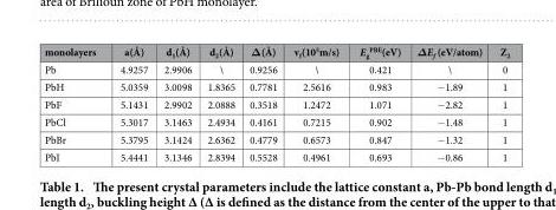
<table><thead><tr><td>monolayers</td><td>a(Å)</td><td>d<sub>1</sub>(Å)</td><td>d<sub>2</sub>(Å)</td><td>Δ(Å)</td><td>v<sub>f</sub>(10<sup>5</sup>m/s)</td><td>E<sub>g</sub> <sup>PBE</sup>(eV)</td><td>ΔE<sub>f</sub> (eV/atom)</td><td>Z<sub>2</sub></td></tr></thead><tbody><tr><td>Pb</td><td>4.9257</td><td>2.9906</td><td>\</td><td>0.9256</td><td>\</td><td>0.421</td><td>\</td><td>0</td></tr><tr><td>PbH</td><td>5.0359</td><td>3.0098</td><td>1.8365</td><td>0.7781</td><td>2.5616</td><td>0.983</td><td>−1.89</td><td>1</td></tr><tr><td>PbF</td><td>5.1431</td><td>2.9902</td><td>2.0888</td><td>0.3518</td><td>1.2472</td><td>1.071</td><td>−2.82</td><td>1</td></tr><tr><td>PbCl</td><td>5.3017</td><td>3.1463</td><td>2.4934</td><td>0.4161</td><td>0.7215</td><td>0.902</td><td>−1.48</td><td>1</td></tr><tr><td>PbBr</td><td>5.3795</td><td>3.1424</td><td>2.6362</td><td>0.4779</td><td>0.6573</td><td>0.847</td><td>−1.32</td><td>1</td></tr><tr><td>PbI</td><td>5.4441</td><td>3.1346</td><td>2.8394</td><td>0.5528</td><td>0.4961</td><td>0.693</td><td>−0.86</td><td>1</td></tr></tbody></table>